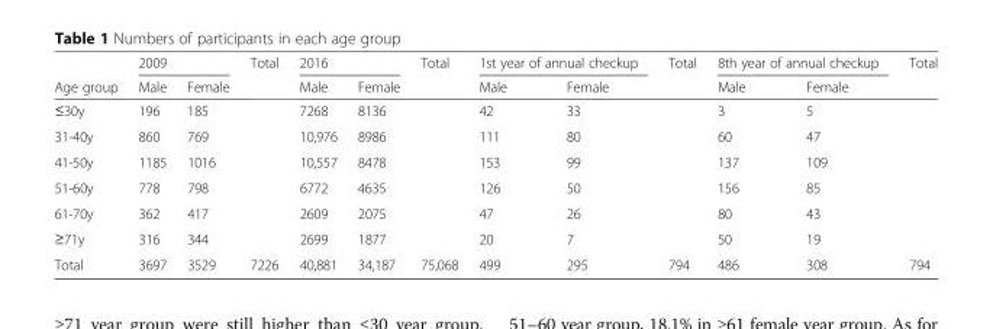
<table><thead><tr><td rowspan="2">Age group</td><td colspan="2">2009</td><td rowspan="2">Total</td><td colspan="2">2016</td><td rowspan="2">Total</td><td colspan="2">1st year of annual checkup</td><td rowspan="2">Total</td><td colspan="2">8th year of annual checkup</td><td rowspan="2">Total</td></tr><tr><td>Male</td><td>Female</td><td>Male</td><td>Female</td><td>Male</td><td>Female</td><td>Male</td><td>Female</td></tr></thead><tbody><tr><td>≤30y</td><td>196</td><td>185</td><td></td><td>7268</td><td>8136</td><td></td><td>42</td><td>33</td><td></td><td>3</td><td>5</td><td></td></tr><tr><td>31-40y</td><td>860</td><td>769</td><td></td><td>10,976</td><td>8986</td><td></td><td>111</td><td>80</td><td></td><td>60</td><td>47</td><td></td></tr><tr><td>41-50y</td><td>1185</td><td>1016</td><td></td><td>10,557</td><td>8478</td><td></td><td>153</td><td>99</td><td></td><td>137</td><td>109</td><td></td></tr><tr><td>51-60y</td><td>778</td><td>798</td><td></td><td>6772</td><td>4635</td><td></td><td>126</td><td>50</td><td></td><td>156</td><td>85</td><td></td></tr><tr><td>61-70y</td><td>362</td><td>417</td><td></td><td>2609</td><td>2075</td><td></td><td>47</td><td>26</td><td></td><td>80</td><td>43</td><td></td></tr><tr><td>≥71y</td><td>316</td><td>344</td><td></td><td>2699</td><td>1877</td><td></td><td>20</td><td>7</td><td></td><td>50</td><td>19</td><td></td></tr><tr><td>Total</td><td>3697</td><td>3529</td><td>7226</td><td>40,881</td><td>34,187</td><td>75,068</td><td>499</td><td>295</td><td>794</td><td>486</td><td>308</td><td>794</td></tr></tbody></table>